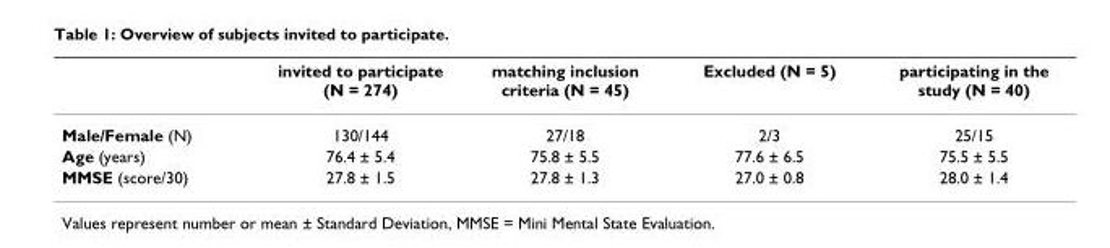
<table><thead><tr><td></td><td>invited to participate (N = 274)</td><td>matching inclusion criteria (N = 45)</td><td>Excluded (N = 5)</td><td>participating in the study (N = 40)</td></tr></thead><tbody><tr><td>Male/Female (N)</td><td>130/144</td><td>27/18</td><td>2/3</td><td>25/15</td></tr><tr><td>Age (years)</td><td>76.4 ± 5.4</td><td>75.8 ± 5.5</td><td>77.6 ± 6.5</td><td>75.5 ± 5.5</td></tr><tr><td>MMSE (score/30)</td><td>27.8 ± 1.5</td><td>27.8 ± 1.3</td><td>27.0 ± 0.8</td><td>28.0 ± 1.4</td></tr></tbody></table>